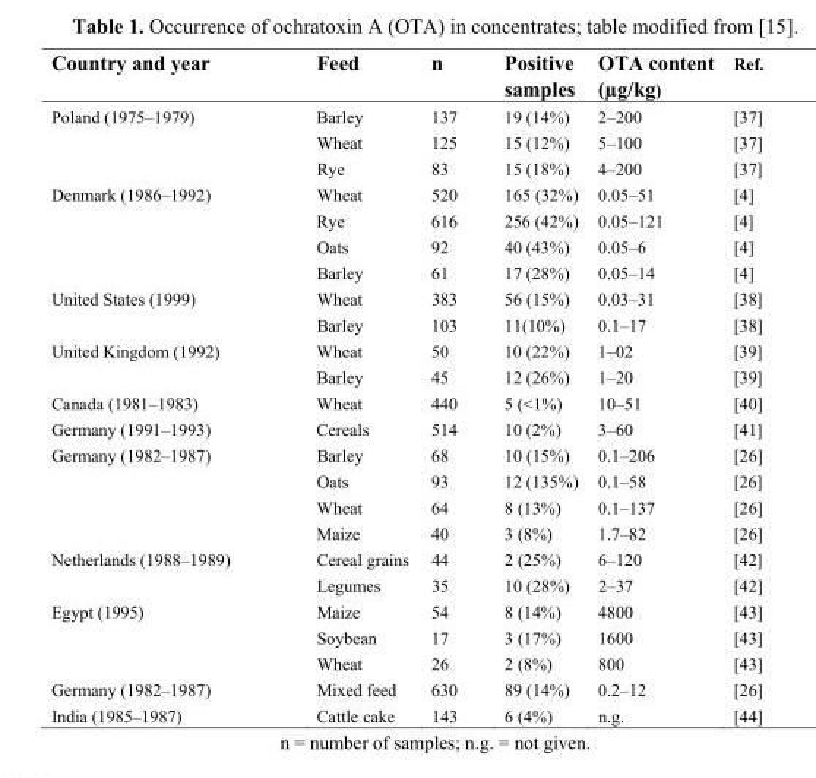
<table><thead><tr><td>Country and year</td><td>Feed</td><td>n</td><td>Positive samples</td><td>OTA content (µg/kg)</td><td>Ref.</td></tr></thead><tbody><tr><td rowspan="3">Poland (1975–1979)</td><td>Barley</td><td>137</td><td>19 (14%)</td><td>2–200</td><td>[37]</td></tr><tr><td>Wheat</td><td>125</td><td>15 (12%)</td><td>5–100</td><td>[37]</td></tr><tr><td>Rye</td><td>83</td><td>15 (18%)</td><td>4–200</td><td>[37]</td></tr><tr><td rowspan="4">Denmark (1986–1992)</td><td>Wheat</td><td>520</td><td>165 (32%)</td><td>0.05–51</td><td>[4]</td></tr><tr><td>Rye</td><td>616</td><td>256 (42%)</td><td>0.05–121</td><td>[4]</td></tr><tr><td>Oats</td><td>92</td><td>40 (43%)</td><td>0.05–6</td><td>[4]</td></tr><tr><td>Barley</td><td>61</td><td>17 (28%)</td><td>0.05–14</td><td>[4]</td></tr><tr><td rowspan="2">United States (1999)</td><td>Wheat</td><td>383</td><td>56 (15%)</td><td>0.03–31</td><td>[38]</td></tr><tr><td>Barley</td><td>103</td><td>11(10%)</td><td>0.1–17</td><td>[38]</td></tr><tr><td rowspan="2">United Kingdom (1992)</td><td>Wheat</td><td>50</td><td>10 (22%)</td><td>1–02</td><td>[39]</td></tr><tr><td>Barley</td><td>45</td><td>12 (26%)</td><td>1–20</td><td>[39]</td></tr><tr><td>Canada (1981–1983)</td><td>Wheat</td><td>440</td><td>5 (&lt;1%)</td><td>10–51</td><td>[40]</td></tr><tr><td>Germany (1991–1993)</td><td>Cereals</td><td>514</td><td>10 (2%)</td><td>3–60</td><td>[41]</td></tr><tr><td rowspan="4">Germany (1982–1987)</td><td>Barley</td><td>68</td><td>10 (15%)</td><td>0.1–206</td><td>[26]</td></tr><tr><td>Oats</td><td>93</td><td>12 (135%)</td><td>0.1–58</td><td>[26]</td></tr><tr><td>Wheat</td><td>64</td><td>8 (13%)</td><td>0.1–137</td><td>[26]</td></tr><tr><td>Maize</td><td>40</td><td>3 (8%)</td><td>1.7–82</td><td>[26]</td></tr><tr><td rowspan="2">Netherlands (1988–1989)</td><td>Cereal grains</td><td>44</td><td>2 (25%)</td><td>6–120</td><td>[42]</td></tr><tr><td>Legumes</td><td>35</td><td>10 (28%)</td><td>2–37</td><td>[42]</td></tr><tr><td rowspan="3">Egypt (1995)</td><td>Maize</td><td>54</td><td>8 (14%)</td><td>4800</td><td>[43]</td></tr><tr><td>Soybean</td><td>17</td><td>3 (17%)</td><td>1600</td><td>[43]</td></tr><tr><td>Wheat</td><td>26</td><td>2 (8%)</td><td>800</td><td>[43]</td></tr><tr><td>Germany (1982–1987)</td><td>Mixed feed</td><td>630</td><td>89 (14%)</td><td>0.2–12</td><td>[26]</td></tr><tr><td>India (1985–1987)</td><td>Cattle cake</td><td>143</td><td>6 (4%)</td><td>n.g.</td><td>[44]</td></tr></tbody></table>